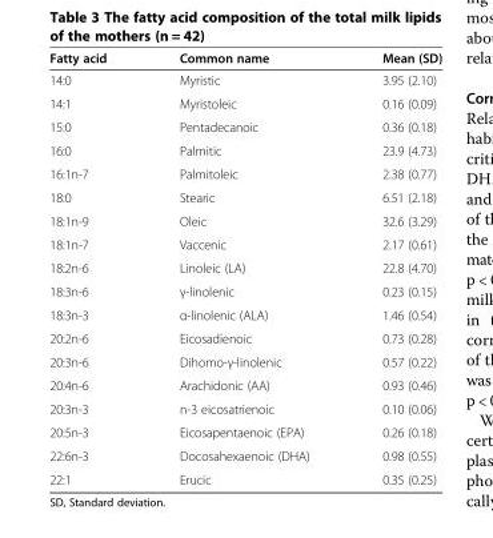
<table><thead><tr><td>Fatty acid</td><td>Common name</td><td>Mean (SD)</td></tr></thead><tbody><tr><td>14:0</td><td>Myristic</td><td>3.95 (2.10)</td></tr><tr><td>14:1</td><td>Myristoleic</td><td>0.16 (0.09)</td></tr><tr><td>15:0</td><td>Pentadecanoic</td><td>0.36 (0.18)</td></tr><tr><td>16:0</td><td>Palmitic</td><td>23.9 (4.73)</td></tr><tr><td>16:1n-7</td><td>Palmitoleic</td><td>2.38 (0.77)</td></tr><tr><td>18:0</td><td>Stearic</td><td>6.51 (2.18)</td></tr><tr><td>18:1n-9</td><td>Oleic</td><td>32.6 (3.29)</td></tr><tr><td>18:1n-7</td><td>Vaccenic</td><td>2.17 (0.61)</td></tr><tr><td>18:2n-6</td><td>Linoleic (LA)</td><td>22.8 (4.70)</td></tr><tr><td>18:3n-6</td><td>γ-linolenic</td><td>0.23 (0.15)</td></tr><tr><td>18:3n-3</td><td>α-linolenic (ALA)</td><td>1.46 (0.54)</td></tr><tr><td>20:2n-6</td><td>Eicosadienoic</td><td>0.73 (0.28)</td></tr><tr><td>20:3n-6</td><td>Dihomo-γ-linolenic</td><td>0.57 (0.22)</td></tr><tr><td>20:4n-6</td><td>Arachidonic (AA)</td><td>0.93 (0.46)</td></tr><tr><td>20:3n-3</td><td>n-3 eicosatrienoic</td><td>0.10 (0.06)</td></tr><tr><td>20:5n-3</td><td>Eicosapentaenoic (EPA)</td><td>0.26 (0.18)</td></tr><tr><td>22:6n-3</td><td>Docosahexaenoic (DHA)</td><td>0.98 (0.55)</td></tr><tr><td>22:1</td><td>Erucic</td><td>0.35 (0.25)</td></tr></tbody></table>